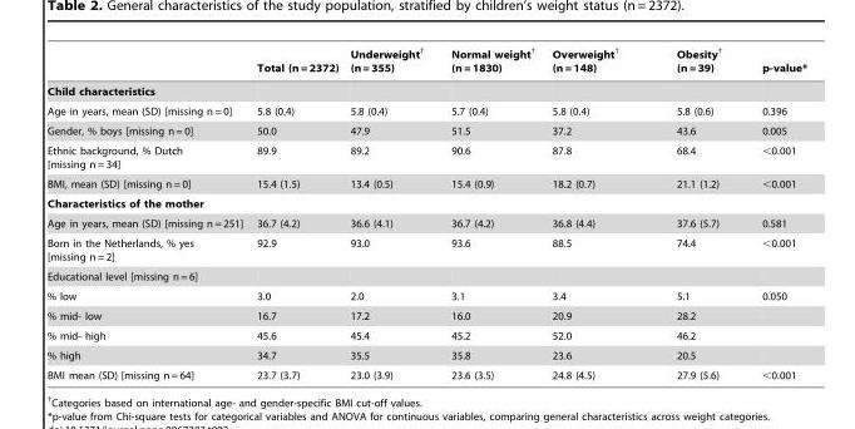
<table><thead><tr><td></td><td>Total (n = 2372)</td><td>Underweight† (n = 355)</td><td>Normal weight† (n = 1830)</td><td>Overweight† (n = 148)</td><td>Obesity† (n = 39)</td><td>p-value*</td></tr></thead><tbody><tr><td colspan="7">Child characteristics</td></tr><tr><td>Age in years, mean (SD) [missing n = 0]</td><td>5.8 (0.4)</td><td>5.8 (0.4)</td><td>5.7 (0.4)</td><td>5.8 (0.4)</td><td>5.8 (0.6)</td><td>0.396</td></tr><tr><td>Gender, % boys [missing n = 0]</td><td>50.0</td><td>47.9</td><td>51.5</td><td>37.2</td><td>43.6</td><td>0.005</td></tr><tr><td>Ethnic background, % Dutch [missing n = 34]</td><td>89.9</td><td>89.2</td><td>90.6</td><td>87.8</td><td>68.4</td><td>&lt;0.001</td></tr><tr><td>BMI, mean (SD) [missing n = 0]</td><td>15.4 (1.5)</td><td>13.4 (0.5)</td><td>15.4 (0.9)</td><td>18.2 (0.7)</td><td>21.1 (1.2)</td><td>&lt;0.001</td></tr><tr><td colspan="7">Characteristics of the mother</td></tr><tr><td>Age in years, mean (SD) [missing n = 251]</td><td>36.7 (4.2)</td><td>36.6 (4.1)</td><td>36.7 (4.2)</td><td>36.8 (4.4)</td><td>37.6 (5.7)</td><td>0.581</td></tr><tr><td>Born in the Netherlands, % yes [missing n = 2]</td><td>92.9</td><td>93.0</td><td>93.6</td><td>88.5</td><td>74.4</td><td>&lt;0.001</td></tr><tr><td colspan="7">Educational level [missing n = 6]</td></tr><tr><td>% low</td><td>3.0</td><td>2.0</td><td>3.1</td><td>3.4</td><td>5.1</td><td>0.050</td></tr><tr><td>% mid- low</td><td>16.7</td><td>17.2</td><td>16.0</td><td>20.9</td><td>28.2</td><td></td></tr><tr><td>% mid- high</td><td>45.6</td><td>45.4</td><td>45.2</td><td>52.0</td><td>46.2</td><td></td></tr><tr><td>% high</td><td>34.7</td><td>35.5</td><td>35.8</td><td>23.6</td><td>20.5</td><td></td></tr><tr><td>BMI mean (SD) [missing n = 64]</td><td>23.7 (3.7)</td><td>23.0 (3.9)</td><td>23.6 (3.5)</td><td>24.8 (4.5)</td><td>27.9 (5.6)</td><td>&lt;0.001</td></tr></tbody></table>